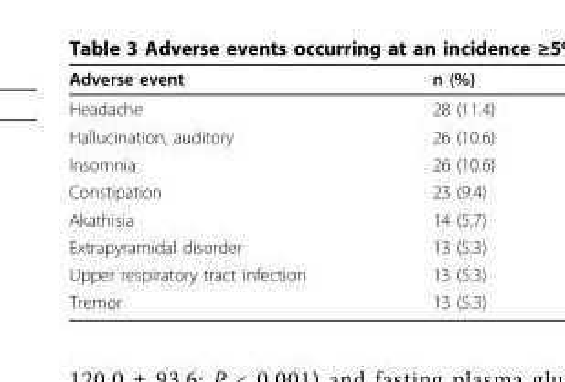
<table><thead><tr><td>Adverse event</td><td>n (%)</td></tr></thead><tbody><tr><td>Headache</td><td>28 (11.4)</td></tr><tr><td>Hallucination, auditory</td><td>26 (10.6)</td></tr><tr><td>Insomnia</td><td>26 (10.6)</td></tr><tr><td>Constipation</td><td>23 (9.4)</td></tr><tr><td>Akathisia</td><td>14 (5.7)</td></tr><tr><td>Extrapyramidal disorder</td><td>13 (5.3)</td></tr><tr><td>Upper respiratory tract infection</td><td>13 (5.3)</td></tr><tr><td>Tremor</td><td>13 (5.3)</td></tr></tbody></table>